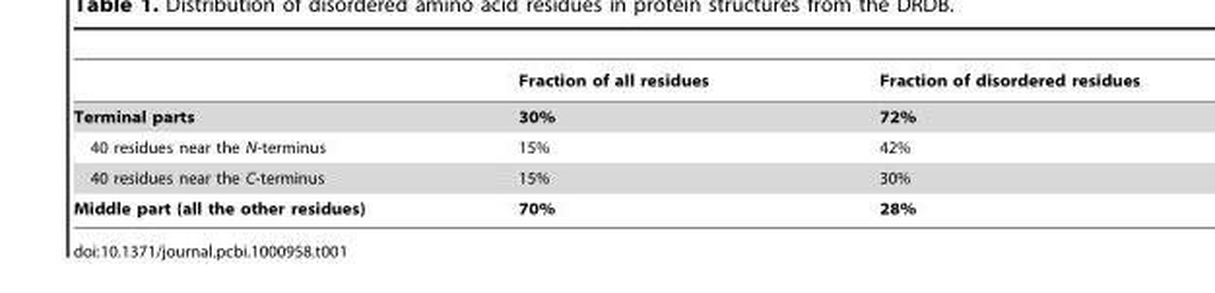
<table><thead><tr><td></td><td>Fraction of all residues</td><td>Fraction of disordered residues</td></tr></thead><tbody><tr><td>Terminal parts</td><td>30%</td><td>72%</td></tr><tr><td>40 residues near the N-terminus</td><td>15%</td><td>42%</td></tr><tr><td>40 residues near the C-terminus</td><td>15%</td><td>30%</td></tr><tr><td>Middle part (all the other residues)</td><td>70%</td><td>28%</td></tr></tbody></table>